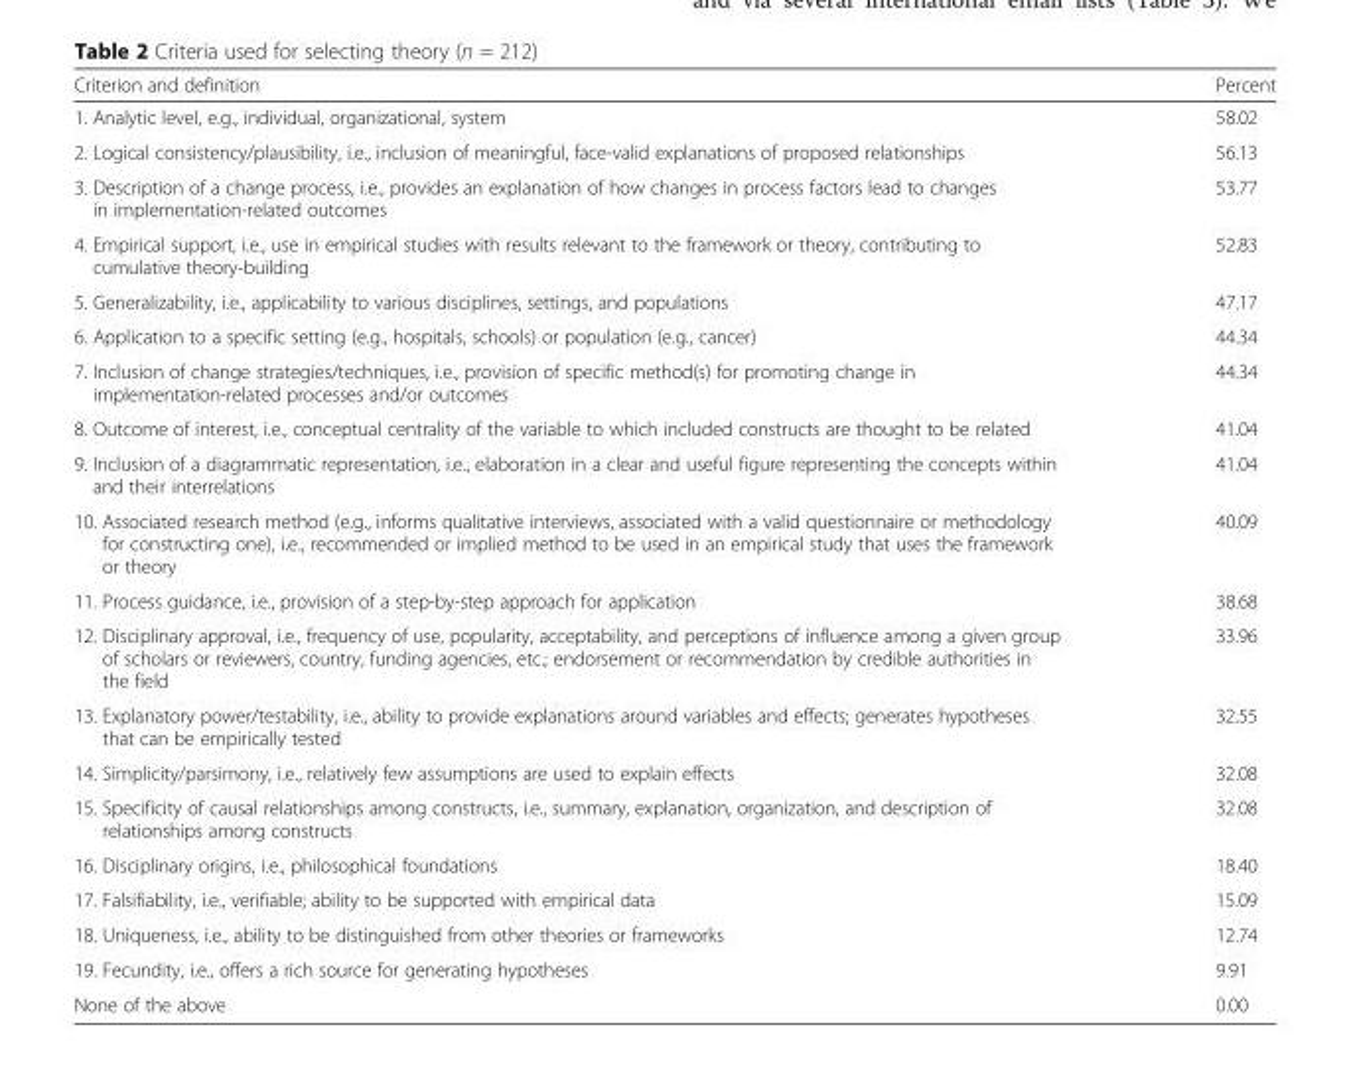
<table><thead><tr><td>Criterion and definition</td><td>Percent</td></tr></thead><tbody><tr><td>1. Analytic level, e.g., individual, organizational, system</td><td>58.02</td></tr><tr><td>2. Logical consistency/plausibility, i.e., inclusion of meaningful, face-valid explanations of proposed relationships</td><td>56.13</td></tr><tr><td>3. Description of a change process, i.e., provides an explanation of how changes in process factors lead to changes in implementation-related outcomes</td><td>53.77</td></tr><tr><td>4. Empirical support, i.e., use in empirical studies with results relevant to the framework or theory, contributing to cumulative theory-building</td><td>52.83</td></tr><tr><td>5. Generalizability, i.e., applicability to various disciplines, settings, and populations</td><td>47.17</td></tr><tr><td>6. Application to a specific setting (e.g., hospitals, schools) or population (e.g., cancer)</td><td>44.34</td></tr><tr><td>7. Inclusion of change strategies/techniques, i.e., provision of specific method(s) for promoting change in implementation-related processes and/or outcomes</td><td>44.34</td></tr><tr><td>8. Outcome of interest, i.e., conceptual centrality of the variable to which included constructs are thought to be related</td><td>41.04</td></tr><tr><td>9. Inclusion of a diagrammatic representation, i.e., elaboration in a clear and useful figure representing the concepts within and their interrelations</td><td>41.04</td></tr><tr><td>10. Associated research method (e.g., informs qualitative interviews, associated with a valid questionnaire or methodology for constructing one), i.e., recommended or implied method to be used in an empirical study that uses the framework or theory</td><td>40.09</td></tr><tr><td>11. Process guidance, i.e., provision of a step-by-step approach for application</td><td>38.68</td></tr><tr><td>12. Disciplinary approval, i.e., frequency of use, popularity, acceptability, and perceptions of influence among a given group of scholars or reviewers, country, funding agencies, etc.; endorsement or recommendation by credible authorities in the field</td><td>33.96</td></tr><tr><td>13. Explanatory power/testability, i.e., ability to provide explanations around variables and effects; generates hypotheses that can be empirically tested</td><td>32.55</td></tr><tr><td>14. Simplicity/parsimony, i.e., relatively few assumptions are used to explain effects</td><td>32.08</td></tr><tr><td>15. Specificity of causal relationships among constructs, i.e., summary, explanation, organization, and description of relationships among constructs</td><td>32.08</td></tr><tr><td>16. Disciplinary origins, i.e., philosophical foundations</td><td>18.40</td></tr><tr><td>17. Falsifiability, i.e., verifiable; ability to be supported with empirical data</td><td>15.09</td></tr><tr><td>18. Uniqueness, i.e., ability to be distinguished from other theories or frameworks</td><td>12.74</td></tr><tr><td>19. Fecundity, i.e., offers a rich source for generating hypotheses</td><td>9.91</td></tr><tr><td>None of the above</td><td>0.00</td></tr></tbody></table>